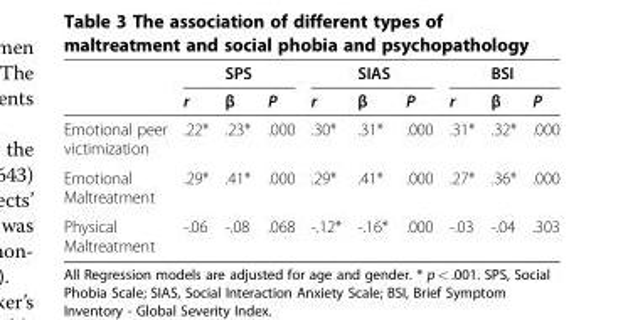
<table><thead><tr><td rowspan="2"></td><td rowspan="2">r</td><td rowspan="2">SPS β</td><td rowspan="2">P</td><td rowspan="2">r</td><td rowspan="2">SIAS β</td><td rowspan="2">P</td><td rowspan="2">r</td><td rowspan="2">BSI β</td><td rowspan="2">P</td></tr><tr></tr></thead><tbody><tr><td>Emotional peer victimization</td><td>.22*</td><td>.23*</td><td>.000</td><td>.30*</td><td>.31*</td><td>.000</td><td>.31*</td><td>.32*</td><td>.000</td></tr><tr><td>Emotional Maltreatment</td><td>.29*</td><td>.41*</td><td>.000</td><td>.29*</td><td>.41*</td><td>.000</td><td>.27*</td><td>.36*</td><td>.000</td></tr><tr><td>Physical Maltreatment</td><td>-.06</td><td>-.08</td><td>.068</td><td>-.12*</td><td>-.16*</td><td>.000</td><td>-.03</td><td>-.04</td><td>.303</td></tr></tbody></table>